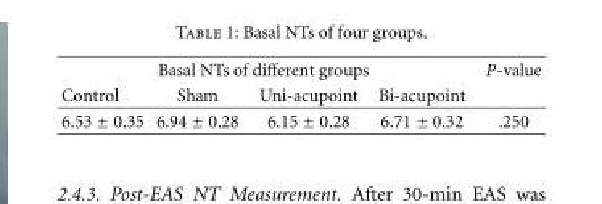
<table><thead><tr><td colspan="4">Basal NTs of different groups</td><td rowspan="2">P-value</td></tr><tr><td>Control</td><td>Sham</td><td>Uni-acupoint</td><td>Bi-acupoint</td></tr></thead><tbody><tr><td>6.53 ± 0.35</td><td>6.94 ± 0.28</td><td>6.15 ± 0.28</td><td>6.71 ± 0.32</td><td>.250</td></tr></tbody></table>